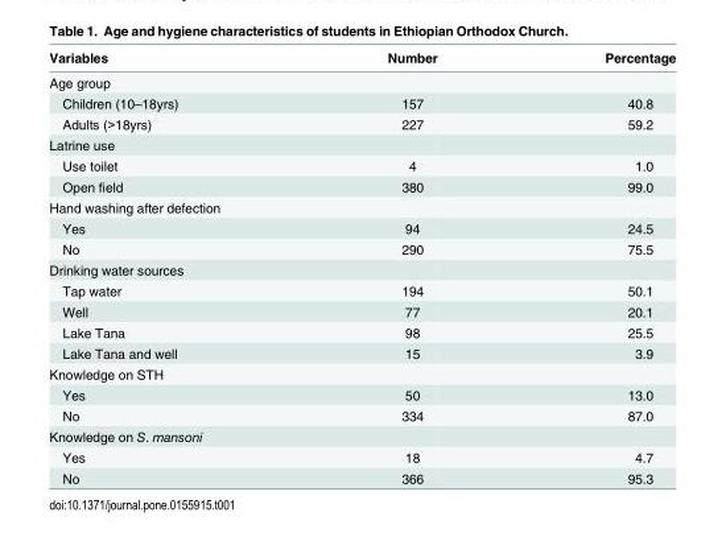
<table><thead><tr><td>Variables</td><td>Number</td><td>Percentage</td></tr></thead><tbody><tr><td colspan="3">Age group</td></tr><tr><td>Children (10–18yrs)</td><td>157</td><td>40.8</td></tr><tr><td>Adults (&gt;18yrs)</td><td>227</td><td>59.2</td></tr><tr><td colspan="3">Latrine use</td></tr><tr><td>Use toilet</td><td>4</td><td>1.0</td></tr><tr><td>Open field</td><td>380</td><td>99.0</td></tr><tr><td colspan="3">Hand washing after defection</td></tr><tr><td>Yes</td><td>94</td><td>24.5</td></tr><tr><td>No</td><td>290</td><td>75.5</td></tr><tr><td colspan="3">Drinking water sources</td></tr><tr><td>Tap water</td><td>194</td><td>50.1</td></tr><tr><td>Well</td><td>77</td><td>20.1</td></tr><tr><td>Lake Tana</td><td>98</td><td>25.5</td></tr><tr><td>Lake Tana and well</td><td>15</td><td>3.9</td></tr><tr><td colspan="3">Knowledge on STH</td></tr><tr><td>Yes</td><td>50</td><td>13.0</td></tr><tr><td>No</td><td>334</td><td>87.0</td></tr><tr><td colspan="3">Knowledge on S. mansoni</td></tr><tr><td>Yes</td><td>18</td><td>4.7</td></tr><tr><td>No</td><td>366</td><td>95.3</td></tr></tbody></table>